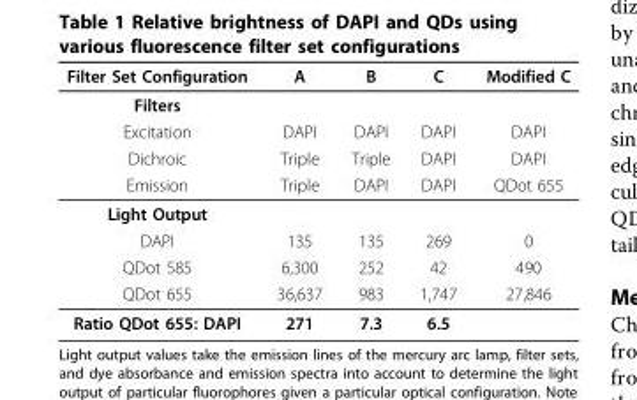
<table><thead><tr><td>Filter Set Configuration</td><td>A</td><td>B</td><td>C</td><td>Modified C</td></tr></thead><tbody><tr><td colspan="5">Filters</td></tr><tr><td>Excitation</td><td>DAPI</td><td>DAPI</td><td>DAPI</td><td>DAPI</td></tr><tr><td>Dichroic</td><td>Triple</td><td>Triple</td><td>DAPI</td><td>DAPI</td></tr><tr><td>Emission</td><td>Triple</td><td>DAPI</td><td>DAPI</td><td>QDot 655</td></tr><tr><td colspan="5">Light Output</td></tr><tr><td>DAPI</td><td>135</td><td>135</td><td>269</td><td>0</td></tr><tr><td>QDot 585</td><td>6,300</td><td>252</td><td>42</td><td>490</td></tr><tr><td>QDot 655</td><td>36,637</td><td>983</td><td>1,747</td><td>27,846</td></tr><tr><td>Ratio QDot 655: DAPI</td><td>271</td><td>7.3</td><td>6.5</td><td></td></tr></tbody></table>